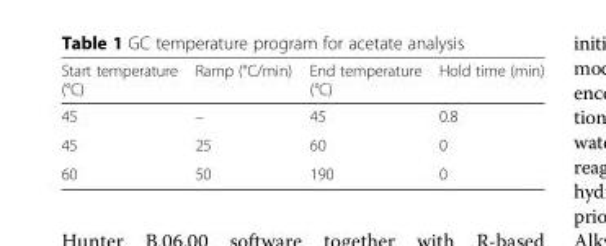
<table><thead><tr><td>Start temperature (°C)</td><td>Ramp (°C/min)</td><td>End temperature (°C)</td><td>Hold time (min)</td></tr></thead><tbody><tr><td>45</td><td>–</td><td>45</td><td>0.8</td></tr><tr><td>45</td><td>25</td><td>60</td><td>0</td></tr><tr><td>60</td><td>50</td><td>190</td><td>0</td></tr></tbody></table>